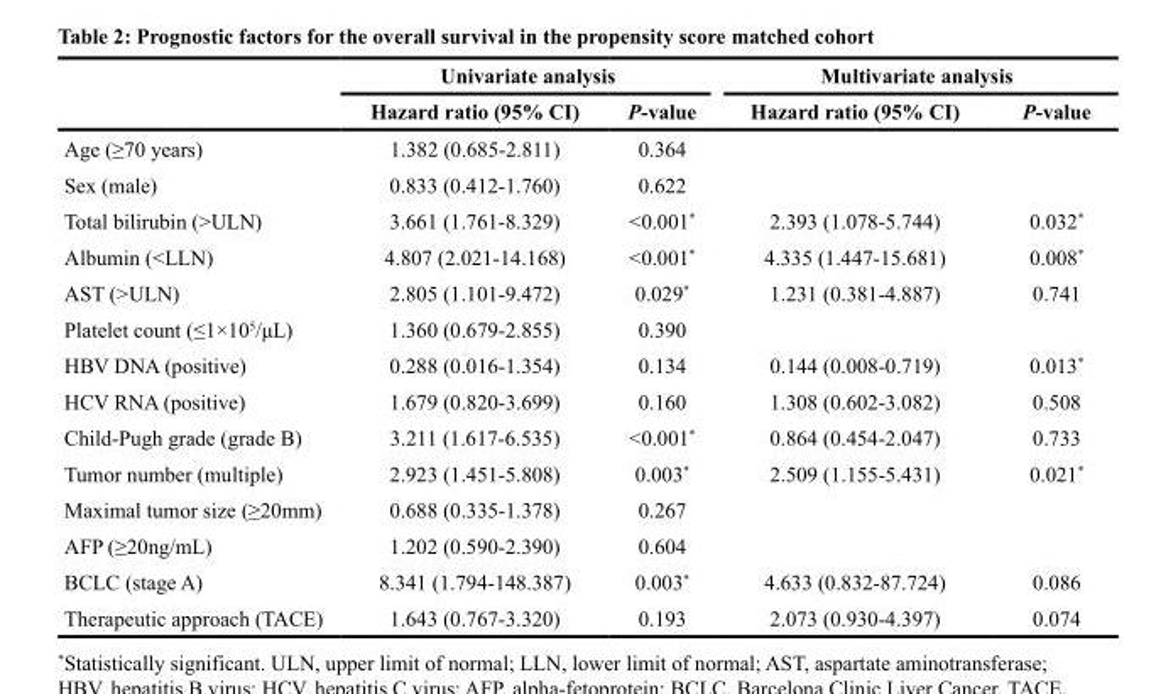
<table><thead><tr><td rowspan="2"></td><td colspan="2">Univariate analysis</td><td colspan="2">Multivariate analysis</td></tr><tr><td>Hazard ratio (95% CI)</td><td>P-value</td><td>Hazard ratio (95% CI)</td><td>P-value</td></tr></thead><tbody><tr><td>Age (≥70 years)</td><td>1.382 (0.685-2.811)</td><td>0.364</td><td></td><td></td></tr><tr><td>Sex (male)</td><td>0.833 (0.412-1.760)</td><td>0.622</td><td></td><td></td></tr><tr><td>Total bilirubin (&gt;ULN)</td><td>3.661 (1.761-8.329)</td><td>&lt;0.001*</td><td>2.393 (1.078-5.744)</td><td>0.032*</td></tr><tr><td>Albumin (&lt;LLN)</td><td>4.807 (2.021-14.168)</td><td>&lt;0.001*</td><td>4.335 (1.447-15.681)</td><td>0.008*</td></tr><tr><td>AST (&gt;ULN)</td><td>2.805 (1.101-9.472)</td><td>0.029*</td><td>1.231 (0.381-4.887)</td><td>0.741</td></tr><tr><td>Platelet count (≤1×10<sup>5</sup>/μL)</td><td>1.360 (0.679-2.855)</td><td>0.390</td><td></td><td></td></tr><tr><td>HBV DNA (positive)</td><td>0.288 (0.016-1.354)</td><td>0.134</td><td>0.144 (0.008-0.719)</td><td>0.013*</td></tr><tr><td>HCV RNA (positive)</td><td>1.679 (0.820-3.699)</td><td>0.160</td><td>1.308 (0.602-3.082)</td><td>0.508</td></tr><tr><td>Child-Pugh grade (grade B)</td><td>3.211 (1.617-6.535)</td><td>&lt;0.001*</td><td>0.864 (0.454-2.047)</td><td>0.733</td></tr><tr><td>Tumor number (multiple)</td><td>2.923 (1.451-5.808)</td><td>0.003*</td><td>2.509 (1.155-5.431)</td><td>0.021*</td></tr><tr><td>Maximal tumor size (≥20mm)</td><td>0.688 (0.335-1.378)</td><td>0.267</td><td></td><td></td></tr><tr><td>AFP (≥20ng/mL)</td><td>1.202 (0.590-2.390)</td><td>0.604</td><td></td><td></td></tr><tr><td>BCLC (stage A)</td><td>8.341 (1.794-148.387)</td><td>0.003*</td><td>4.633 (0.832-87.724)</td><td>0.086</td></tr><tr><td>Therapeutic approach (TACE)</td><td>1.643 (0.767-3.320)</td><td>0.193</td><td>2.073 (0.930-4.397)</td><td>0.074</td></tr></tbody></table>